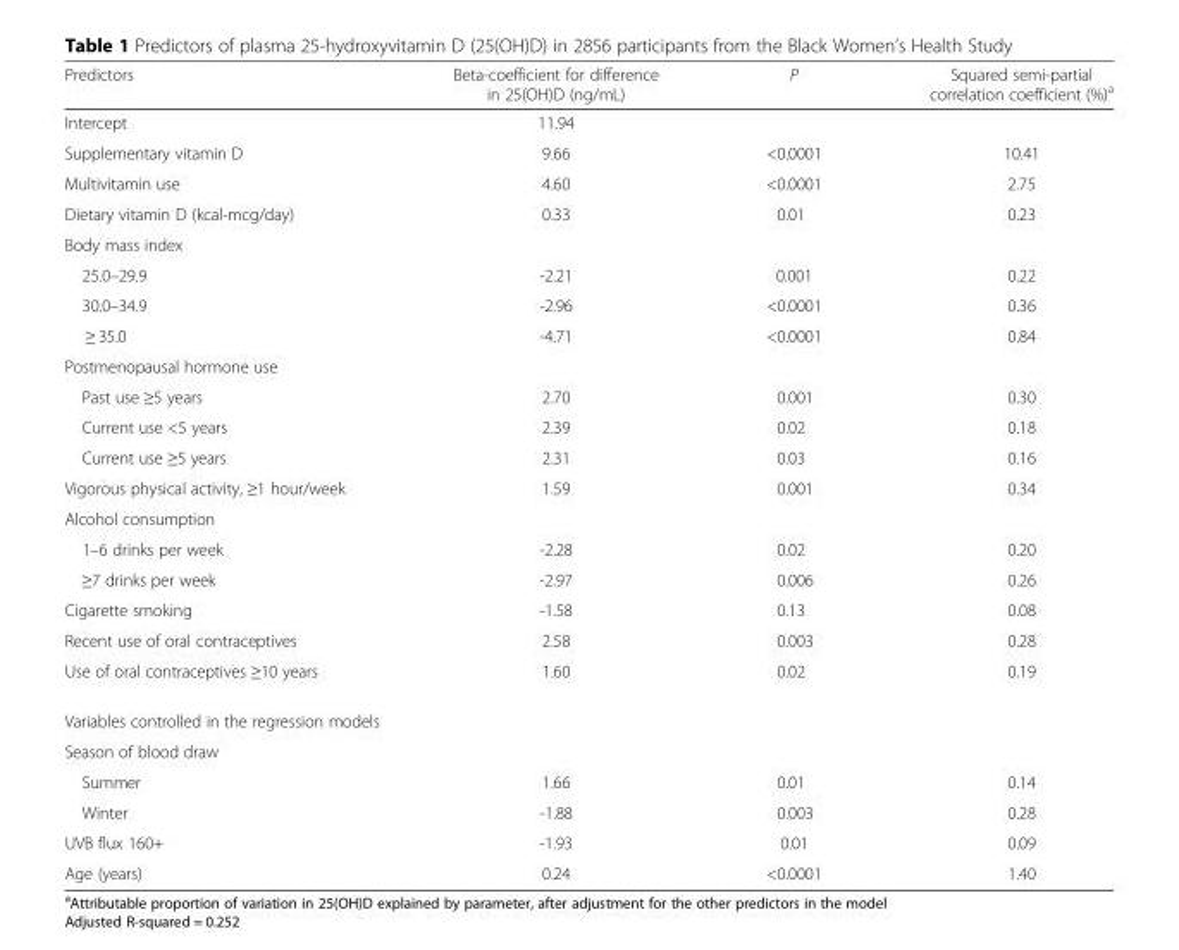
<table><thead><tr><td>Predictors</td><td>Beta-coefficient for difference in 25(OH)D (ng/mL)</td><td>P</td><td>Squared semi-partial correlation coefficient (%)<sup>a</sup></td></tr></thead><tbody><tr><td>Intercept</td><td>11.94</td><td></td><td></td></tr><tr><td>Supplementary vitamin D</td><td>9.66</td><td>&lt;0.0001</td><td>10.41</td></tr><tr><td>Multivitamin use</td><td>4.60</td><td>&lt;0.0001</td><td>2.75</td></tr><tr><td>Dietary vitamin D (kcal-mcg/day)</td><td>0.33</td><td>0.01</td><td>0.23</td></tr><tr><td colspan="4">Body mass index</td></tr><tr><td>25.0–29.9</td><td>-2.21</td><td>0.001</td><td>0.22</td></tr><tr><td>30.0–34.9</td><td>-2.96</td><td>&lt;0.0001</td><td>0.36</td></tr><tr><td>≥ 35.0</td><td>-4.71</td><td>&lt;0.0001</td><td>0.84</td></tr><tr><td colspan="4">Postmenopausal hormone use</td></tr><tr><td>Past use ≥5 years</td><td>2.70</td><td>0.001</td><td>0.30</td></tr><tr><td>Current use &lt;5 years</td><td>2.39</td><td>0.02</td><td>0.18</td></tr><tr><td>Current use ≥5 years</td><td>2.31</td><td>0.03</td><td>0.16</td></tr><tr><td>Vigorous physical activity, ≥1 hour/week</td><td>1.59</td><td>0.001</td><td>0.34</td></tr><tr><td colspan="4">Alcohol consumption</td></tr><tr><td>1–6 drinks per week</td><td>-2.28</td><td>0.02</td><td>0.20</td></tr><tr><td>≥7 drinks per week</td><td>-2.97</td><td>0.006</td><td>0.26</td></tr><tr><td>Cigarette smoking</td><td>-1.58</td><td>0.13</td><td>0.08</td></tr><tr><td>Recent use of oral contraceptives</td><td>2.58</td><td>0.003</td><td>0.28</td></tr><tr><td>Use of oral contraceptives ≥10 years</td><td>1.60</td><td>0.02</td><td>0.19</td></tr><tr><td colspan="4">Variables controlled in the regression models</td></tr><tr><td colspan="4">Season of blood draw</td></tr><tr><td>Summer</td><td>1.66</td><td>0.01</td><td>0.14</td></tr><tr><td>Winter</td><td>-1.88</td><td>0.003</td><td>0.28</td></tr><tr><td>UVB flux 160+</td><td>-1.93</td><td>0.01</td><td>0.09</td></tr><tr><td>Age (years)</td><td>0.24</td><td>&lt;0.0001</td><td>1.40</td></tr></tbody></table>